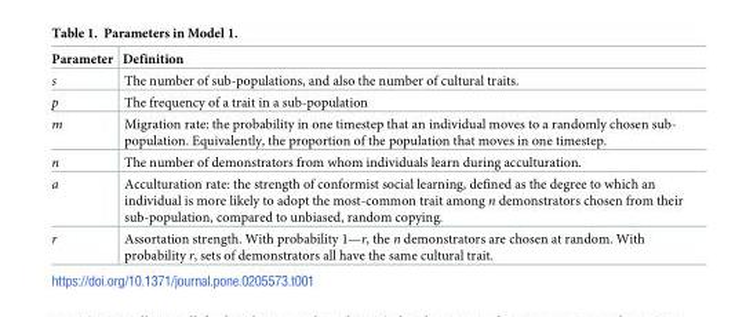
<table><thead><tr><td>Parameter</td><td>Definition</td></tr></thead><tbody><tr><td>s</td><td>The number of sub-populations, and also the number of cultural traits.</td></tr><tr><td>p</td><td>The frequency of a trait in a sub-population</td></tr><tr><td>m</td><td>Migration rate: the probability in one timestep that an individual moves to a randomly chosen sub- population. Equivalently, the proportion of the population that moves in one timestep.</td></tr><tr><td>n</td><td>The number of demonstrators from whom individuals learn during acculturation.</td></tr><tr><td>a</td><td>Acculturation rate: the strength of conformist social learning, defined as the degree to which an individual is more likely to adopt the most-common trait among n demonstrators chosen from their sub-population, compared to unbiased, random copying.</td></tr><tr><td>r</td><td>Assortation strength. With probability 1—r, the n demonstrators are chosen at random. With probability r, sets of demonstrators all have the same cultural trait.</td></tr></tbody></table>